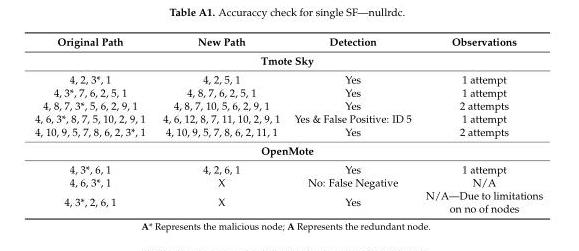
<table><thead><tr><td>Original Path</td><td>New Path</td><td>Detection</td><td>Observations</td></tr></thead><tbody><tr><td colspan="4">Tmote Sky</td></tr><tr><td>4, 2, 3*, 1</td><td>4, 2, 5, 1</td><td>Yes</td><td>1 attempt</td></tr><tr><td>4, 3*, 7, 6, 2, 5, 1</td><td>4, 8, 7, 6, 2, 5, 1</td><td>Yes</td><td>1 attempt</td></tr><tr><td>4, 8, 7, 3*, 5, 6, 2, 9, 1</td><td>4, 8, 7, 10, 5, 6, 2, 9, 1</td><td>Yes</td><td>2 attempts</td></tr><tr><td>4, 6, 3*, 8, 7, 5, 10, 2, 9, 1</td><td>4, 6, 12, 8, 7, 11, 10, 2, 9, 1</td><td>Yes &amp; False Positive: ID 5</td><td>1 attempt</td></tr><tr><td>4, 10, 9, 5, 7, 8, 6, 2, 3*, 1</td><td>4, 10, 9, 5, 7, 8, 6, 2, 11, 1</td><td>Yes</td><td>2 attempts</td></tr><tr><td colspan="4">OpenMote</td></tr><tr><td>4, 3*, 6, 1</td><td>4, 2, 6, 1</td><td>Yes</td><td>1 attempt</td></tr><tr><td>4, 6, 3*, 1</td><td>X</td><td>No: False Negative</td><td>N/A</td></tr><tr><td>4, 3*, 2, 6, 1</td><td>X</td><td>Yes</td><td>N/A—Due to limitations on no of nodes</td></tr></tbody></table>